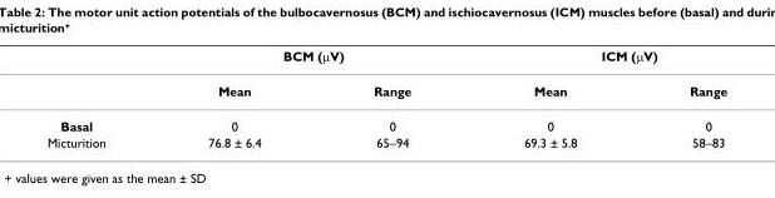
<table><thead><tr><td rowspan="2"></td><td colspan="2">BCM (μV)</td><td colspan="2">ICM (μV)</td></tr><tr><td>Mean</td><td>Range</td><td>Mean</td><td>Range</td></tr></thead><tbody><tr><td>Basal</td><td>0</td><td>0</td><td>0</td><td>0</td></tr><tr><td>Micturition</td><td>76.8 ± 6.4</td><td>65–94</td><td>69.3 ± 5.8</td><td>58–83</td></tr></tbody></table>